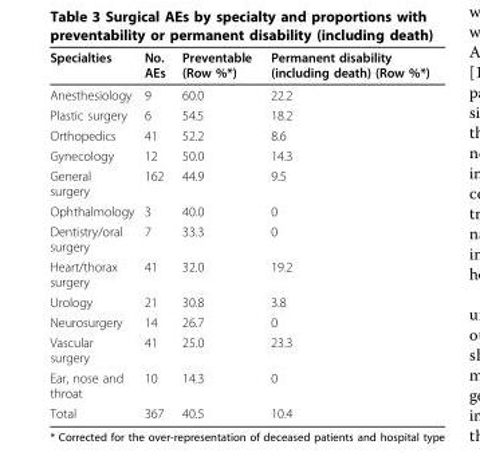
<table><thead><tr><td>Specialties</td><td>No. AEs</td><td>Preventable (Row %*)</td><td>Permanent disability (including death) (Row %*)</td></tr></thead><tbody><tr><td>Anesthesiology</td><td>9</td><td>60.0</td><td>22.2</td></tr><tr><td>Plastic surgery</td><td>6</td><td>54.5</td><td>18.2</td></tr><tr><td>Orthopedics</td><td>41</td><td>52.2</td><td>8.6</td></tr><tr><td>Gynecology</td><td>12</td><td>50.0</td><td>14.3</td></tr><tr><td>General surgery</td><td>162</td><td>44.9</td><td>9.5</td></tr><tr><td>Ophthalmology</td><td>3</td><td>40.0</td><td>0</td></tr><tr><td>Dentistry/oral surgery</td><td>7</td><td>33.3</td><td>0</td></tr><tr><td>Heart/thorax surgery</td><td>41</td><td>32.0</td><td>19.2</td></tr><tr><td>Urology</td><td>21</td><td>30.8</td><td>3.8</td></tr><tr><td>Neurosurgery</td><td>14</td><td>26.7</td><td>0</td></tr><tr><td>Vascular surgery</td><td>41</td><td>25.0</td><td>23.3</td></tr><tr><td>Ear, nose and throat</td><td>10</td><td>14.3</td><td>0</td></tr><tr><td>Total</td><td>367</td><td>40.5</td><td>10.4</td></tr></tbody></table>